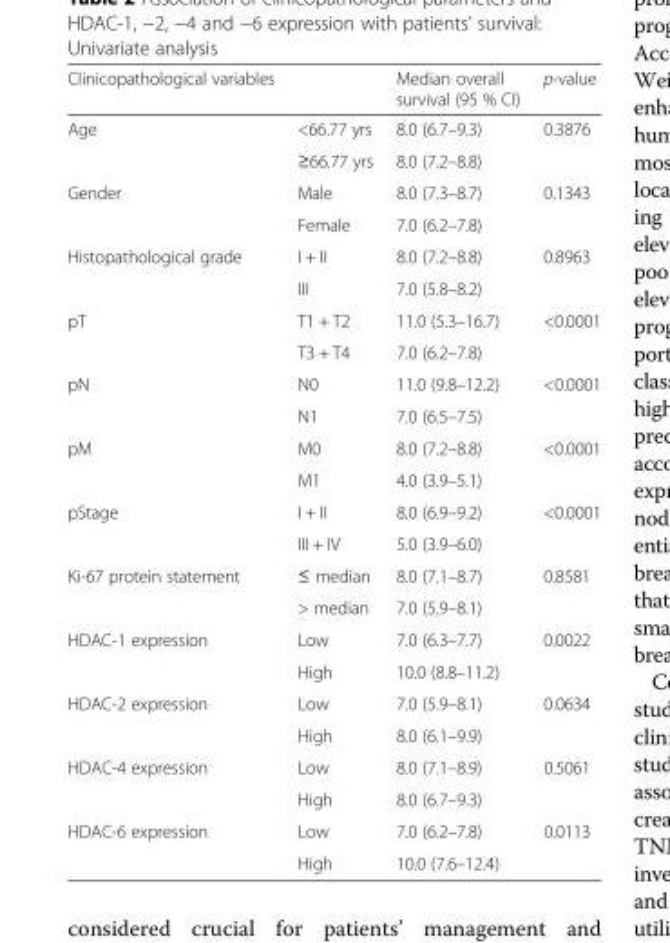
<table><thead><tr><td>Clinicopathological variables</td><td></td><td>Median overall survival (95 % CI)</td><td>p-value</td></tr></thead><tbody><tr><td rowspan="2">Age</td><td>&lt;66.77 yrs</td><td>8.0 (6.7–9.3)</td><td>0.3876</td></tr><tr><td>≥66.77 yrs</td><td>8.0 (7.2–8.8)</td><td></td></tr><tr><td rowspan="2">Gender</td><td>Male</td><td>8.0 (7.3–8.7)</td><td>0.1343</td></tr><tr><td>Female</td><td>7.0 (6.2–7.8)</td><td></td></tr><tr><td rowspan="2">Histopathological grade</td><td>I + II</td><td>8.0 (7.2–8.8)</td><td>0.8963</td></tr><tr><td>III</td><td>7.0 (5.8–8.2)</td><td></td></tr><tr><td rowspan="2">pT</td><td>T1 + T2</td><td>11.0 (5.3–16.7)</td><td>&lt;0.0001</td></tr><tr><td>T3 + T4</td><td>7.0 (6.2–7.8)</td><td></td></tr><tr><td rowspan="2">pN</td><td>N0</td><td>11.0 (9.8–12.2)</td><td>&lt;0.0001</td></tr><tr><td>N1</td><td>7.0 (6.5–7.5)</td><td></td></tr><tr><td rowspan="2">pM</td><td>M0</td><td>8.0 (7.2–8.8)</td><td>&lt;0.0001</td></tr><tr><td>M1</td><td>4.0 (3.9–5.1)</td><td></td></tr><tr><td rowspan="2">pStage</td><td>I + II</td><td>8.0 (6.9–9.2)</td><td>&lt;0.0001</td></tr><tr><td>III + IV</td><td>5.0 (3.9–6.0)</td><td></td></tr><tr><td rowspan="2">Ki-67 protein statement</td><td>≤ median</td><td>8.0 (7.1–8.7)</td><td>0.8581</td></tr><tr><td>&gt; median</td><td>7.0 (5.9–8.1)</td><td></td></tr><tr><td rowspan="2">HDAC-1 expression</td><td>Low</td><td>7.0 (6.3–7.7)</td><td>0.0022</td></tr><tr><td>High</td><td>10.0 (8.8–11.2)</td><td></td></tr><tr><td rowspan="2">HDAC-2 expression</td><td>Low</td><td>7.0 (5.9–8.1)</td><td>0.0634</td></tr><tr><td>High</td><td>8.0 (6.1–9.9)</td><td></td></tr><tr><td rowspan="2">HDAC-4 expression</td><td>Low</td><td>8.0 (7.1–8.9)</td><td>0.5061</td></tr><tr><td>High</td><td>8.0 (6.7–9.3)</td><td></td></tr><tr><td rowspan="2">HDAC-6 expression</td><td>Low</td><td>7.0 (6.2–7.8)</td><td>0.0113</td></tr><tr><td>High</td><td>10.0 (7.6–12.4)</td><td></td></tr></tbody></table>